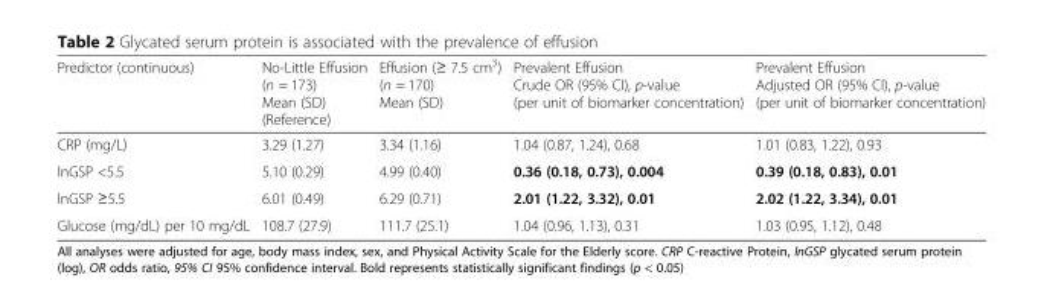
<table><thead><tr><td>Predictor (continuous)</td><td>No-Little Effusion (n = 173) Mean (SD) (Reference)</td><td>Effusion (≥ 7.5 cm<sup>3</sup>) (n = 170) Mean (SD)</td><td>Prevalent Effusion Crude OR (95% CI), p-value (per unit of biomarker concentration)</td><td>Prevalent Effusion Adjusted OR (95% CI), p-value (per unit of biomarker concentration)</td></tr></thead><tbody><tr><td>CRP (mg/L)</td><td>3.29 (1.27)</td><td>3.34 (1.16)</td><td>1.04 (0.87, 1.24), 0.68</td><td>1.01 (0.83, 1.22), 0.93</td></tr><tr><td>lnGSP &lt;5.5</td><td>5.10 (0.29)</td><td>4.99 (0.40)</td><td>0.36 (0.18, 0.73), 0.004</td><td>0.39 (0.18, 0.83), 0.01</td></tr><tr><td>lnGSP ≥5.5</td><td>6.01 (0.49)</td><td>6.29 (0.71)</td><td>2.01 (1.22, 3.32), 0.01</td><td>2.02 (1.22, 3.34), 0.01</td></tr><tr><td>Glucose (mg/dL) per 10 mg/dL</td><td>108.7 (27.9)</td><td>111.7 (25.1)</td><td>1.04 (0.96, 1.13), 0.31</td><td>1.03 (0.95, 1.12), 0.48</td></tr></tbody></table>